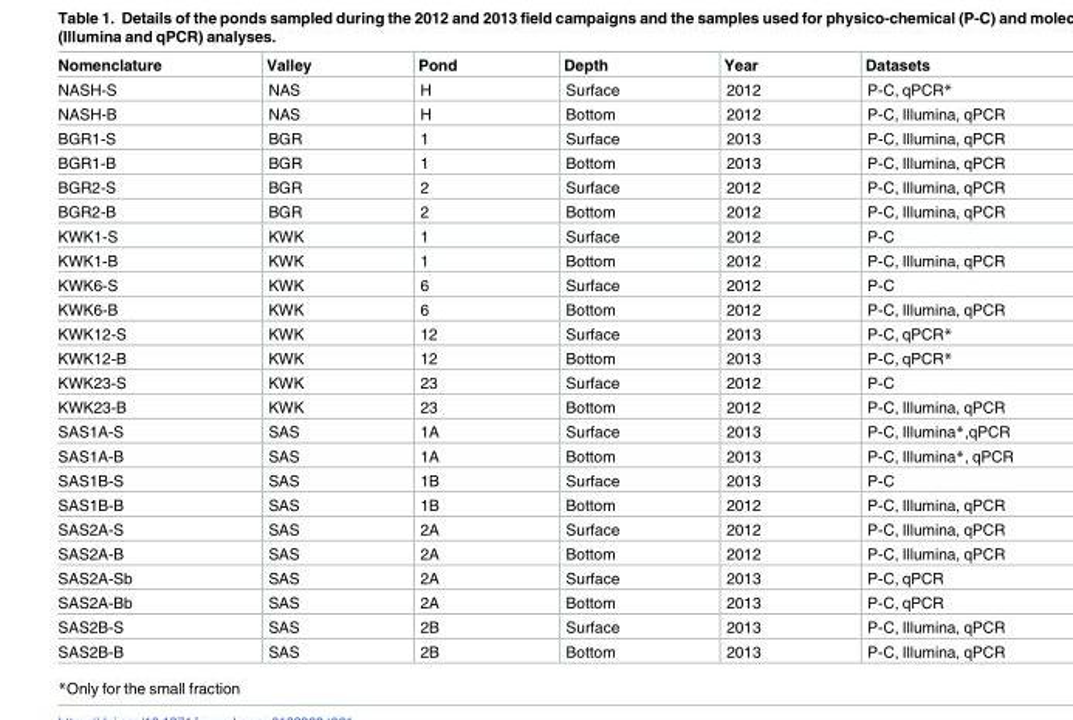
<table><thead><tr><td>Nomenclature</td><td>Valley</td><td>Pond</td><td>Depth</td><td>Year</td><td>Datasets</td></tr></thead><tbody><tr><td>NASH-S</td><td>NAS</td><td>H</td><td>Surface</td><td>2012</td><td>P-C, qPCR*</td></tr><tr><td>NASH-B</td><td>NAS</td><td>H</td><td>Bottom</td><td>2012</td><td>P-C, Illumina, qPCR</td></tr><tr><td>BGR1-S</td><td>BGR</td><td>1</td><td>Surface</td><td>2013</td><td>P-C, Illumina, qPCR</td></tr><tr><td>BGR1-B</td><td>BGR</td><td>1</td><td>Bottom</td><td>2013</td><td>P-C, Illumina, qPCR</td></tr><tr><td>BGR2-S</td><td>BGR</td><td>2</td><td>Surface</td><td>2012</td><td>P-C, Illumina, qPCR</td></tr><tr><td>BGR2-B</td><td>BGR</td><td>2</td><td>Bottom</td><td>2012</td><td>P-C, Illumina, qPCR</td></tr><tr><td>KWK1-S</td><td>KWK</td><td>1</td><td>Surface</td><td>2012</td><td>P-C</td></tr><tr><td>KWK1-B</td><td>KWK</td><td>1</td><td>Bottom</td><td>2012</td><td>P-C, Illumina, qPCR</td></tr><tr><td>KWK6-S</td><td>KWK</td><td>6</td><td>Surface</td><td>2012</td><td>P-C</td></tr><tr><td>KWK6-B</td><td>KWK</td><td>6</td><td>Bottom</td><td>2012</td><td>P-C, Illumina, qPCR</td></tr><tr><td>KWK12-S</td><td>KWK</td><td>12</td><td>Surface</td><td>2013</td><td>P-C, qPCR*</td></tr><tr><td>KWK12-B</td><td>KWK</td><td>12</td><td>Bottom</td><td>2013</td><td>P-C, qPCR*</td></tr><tr><td>KWK23-S</td><td>KWK</td><td>23</td><td>Surface</td><td>2012</td><td>P-C</td></tr><tr><td>KWK23-B</td><td>KWK</td><td>23</td><td>Bottom</td><td>2012</td><td>P-C, Illumina, qPCR</td></tr><tr><td>SAS1A-S</td><td>SAS</td><td>1A</td><td>Surface</td><td>2013</td><td>P-C, Illumina*,qPCR</td></tr><tr><td>SAS1A-B</td><td>SAS</td><td>1A</td><td>Bottom</td><td>2013</td><td>P-C, Illumina*, qPCR</td></tr><tr><td>SAS1B-S</td><td>SAS</td><td>1B</td><td>Surface</td><td>2013</td><td>P-C</td></tr><tr><td>SAS1B-B</td><td>SAS</td><td>1B</td><td>Bottom</td><td>2012</td><td>P-C, Illumina, qPCR</td></tr><tr><td>SAS2A-S</td><td>SAS</td><td>2A</td><td>Surface</td><td>2012</td><td>P-C, Illumina, qPCR</td></tr><tr><td>SAS2A-B</td><td>SAS</td><td>2A</td><td>Bottom</td><td>2012</td><td>P-C, Illumina, qPCR</td></tr><tr><td>SAS2A-Sb</td><td>SAS</td><td>2A</td><td>Surface</td><td>2013</td><td>P-C, qPCR</td></tr><tr><td>SAS2A-Bb</td><td>SAS</td><td>2A</td><td>Bottom</td><td>2013</td><td>P-C, qPCR</td></tr><tr><td>SAS2B-S</td><td>SAS</td><td>2B</td><td>Surface</td><td>2013</td><td>P-C, Illumina, qPCR</td></tr><tr><td>SAS2B-B</td><td>SAS</td><td>2B</td><td>Bottom</td><td>2013</td><td>P-C, Illumina, qPCR</td></tr></tbody></table>